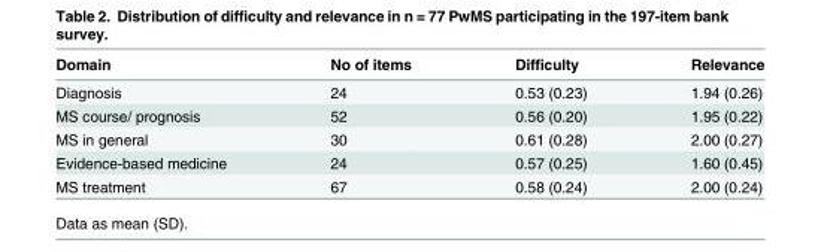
<table><thead><tr><td>Domain</td><td>No of items</td><td>Difficulty</td><td>Relevance</td></tr></thead><tbody><tr><td>Diagnosis</td><td>24</td><td>0.53 (0.23)</td><td>1.94 (0.26)</td></tr><tr><td>MS course/ prognosis</td><td>52</td><td>0.56 (0.20)</td><td>1.95 (0.22)</td></tr><tr><td>MS in general</td><td>30</td><td>0.61 (0.28)</td><td>2.00 (0.27)</td></tr><tr><td>Evidence-based medicine</td><td>24</td><td>0.57 (0.25)</td><td>1.60 (0.45)</td></tr><tr><td>MS treatment</td><td>67</td><td>0.58 (0.24)</td><td>2.00 (0.24)</td></tr></tbody></table>